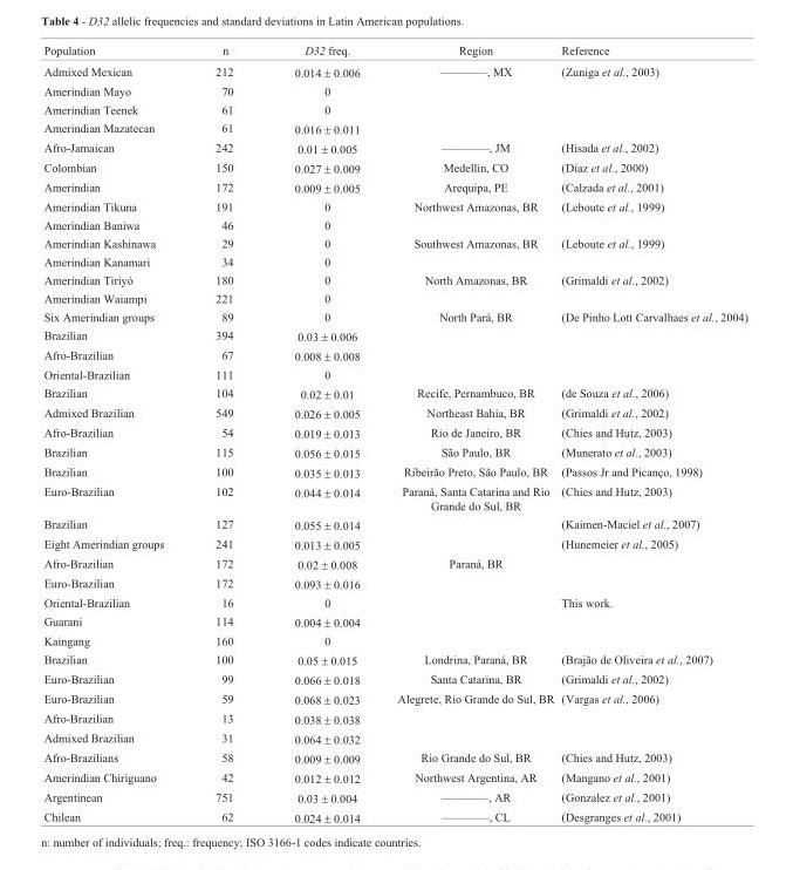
<table><thead><tr><td>Population</td><td>n</td><td>D32 freq.</td><td>Region</td><td>Reference</td></tr></thead><tbody><tr><td>Admixed Mexican</td><td>212</td><td>0.014 ± 0.006</td><td>————, MX</td><td>(Zuniga et al., 2003)</td></tr><tr><td>Amerindian Mayo</td><td>70</td><td>0</td><td></td><td></td></tr><tr><td>Amerindian Teenek</td><td>61</td><td>0</td><td></td><td></td></tr><tr><td>Amerindian Mazatecan</td><td>61</td><td>0.016 ± 0.011</td><td></td><td></td></tr><tr><td>Afro-Jamaican</td><td>242</td><td>0.01 ± 0.005</td><td>————, JM</td><td>(Hisada et al., 2002)</td></tr><tr><td>Colombian</td><td>150</td><td>0.027 ± 0.009</td><td>Medellin, CO</td><td>(Diaz et al., 2000)</td></tr><tr><td>Amerindian</td><td>172</td><td>0.009 ± 0.005</td><td>Arequipa, PE</td><td>(Calzada et al., 2001)</td></tr><tr><td>Amerindian Tikuna</td><td>191</td><td>0</td><td>Northwest Amazonas, BR</td><td>(Leboute et al., 1999)</td></tr><tr><td>Amerindian Baniwa</td><td>46</td><td>0</td><td></td><td></td></tr><tr><td>Amerindian Kashinawa</td><td>29</td><td>0</td><td>Southwest Amazonas, BR</td><td>(Leboute et al., 1999)</td></tr><tr><td>Amerindian Kanamari</td><td>34</td><td>0</td><td></td><td></td></tr><tr><td>Amerindian Tiriyó</td><td>180</td><td>0</td><td>North Amazonas, BR</td><td>(Grimaldi et al., 2002)</td></tr><tr><td>Amerindian Waiampi</td><td>221</td><td>0</td><td></td><td></td></tr><tr><td>Six Amerindian groups</td><td>89</td><td>0</td><td>North Pará, BR</td><td>(De Pinho Lott Carvalhaes et al., 2004)</td></tr><tr><td>Brazilian</td><td>394</td><td>0.03 ± 0.006</td><td></td><td></td></tr><tr><td>Afro-Brazilian</td><td>67</td><td>0.008 ± 0.008</td><td></td><td></td></tr><tr><td>Oriental-Brazilian</td><td>111</td><td>0</td><td></td><td></td></tr><tr><td>Brazilian</td><td>104</td><td>0.02 ± 0.01</td><td>Recife, Pernambuco, BR</td><td>(de Souza et al., 2006)</td></tr><tr><td>Admixed Brazilian</td><td>549</td><td>0.026 ± 0.005</td><td>Northeast Bahia, BR</td><td>(Grimaldi et al., 2002)</td></tr><tr><td>Afro-Brazilian</td><td>54</td><td>0.019 ± 0.013</td><td>Rio de Janeiro, BR</td><td>(Chies and Hutz, 2003)</td></tr><tr><td>Brazilian</td><td>115</td><td>0.056 ± 0.015</td><td>São Paulo, BR</td><td>(Munerato et al., 2003)</td></tr><tr><td>Brazilian</td><td>100</td><td>0.035 ± 0.013</td><td>Ribeirão Preto, São Paulo, BR</td><td>(Passos Jr and Picanço, 1998)</td></tr><tr><td>Euro-Brazilian</td><td>102</td><td>0.044 ± 0.014</td><td>Paraná, Santa Catarina and Rio Grande do Sul, BR</td><td>(Chies and Hutz, 2003)</td></tr><tr><td>Brazilian</td><td>127</td><td>0.055 ± 0.014</td><td></td><td>(Kaimen-Maciel et al., 2007)</td></tr><tr><td>Eight Amerindian groups</td><td>241</td><td>0.013 ± 0.005</td><td></td><td>(Hunemeier et al., 2005)</td></tr><tr><td>Afro-Brazilian</td><td>172</td><td>0.02 ± 0.008</td><td>Paraná, BR</td><td></td></tr><tr><td>Euro-Brazilian</td><td>172</td><td>0.093 ± 0.016</td><td></td><td></td></tr><tr><td>Oriental-Brazilian</td><td>16</td><td>0</td><td></td><td>This work.</td></tr><tr><td>Guarani</td><td>114</td><td>0.004 ± 0.004</td><td></td><td></td></tr><tr><td>Kaingang</td><td>160</td><td>0</td><td></td><td></td></tr><tr><td>Brazilian</td><td>100</td><td>0.05 ± 0.015</td><td>Londrina, Paraná, BR</td><td>(Brajão de Oliveira et al., 2007)</td></tr><tr><td>Euro-Brazilian</td><td>99</td><td>0.066 ± 0.018</td><td>Santa Catarina, BR</td><td>(Grimaldi et al., 2002)</td></tr><tr><td>Euro-Brazilian</td><td>59</td><td>0.068 ± 0.023</td><td>Alegrete, Rio Grande do Sul, BR</td><td>(Vargas et al., 2006)</td></tr><tr><td>Afro-Brazilian</td><td>13</td><td>0.038 ± 0.038</td><td></td><td></td></tr><tr><td>Admixed Brazilian</td><td>31</td><td>0.064 ± 0.032</td><td></td><td></td></tr><tr><td>Afro-Brazilians</td><td>58</td><td>0.009 ± 0.009</td><td>Rio Grande do Sul, BR</td><td>(Chies and Hutz, 2003)</td></tr><tr><td>Amerindian Chiriguano</td><td>42</td><td>0.012 ± 0.012</td><td>Northwest Argentina, AR</td><td>(Mangano et al., 2001)</td></tr><tr><td>Argentinean</td><td>751</td><td>0.03 ± 0.004</td><td>————, AR</td><td>(Gonzalez et al., 2001)</td></tr><tr><td>Chilean</td><td>62</td><td>0.024 ± 0.014</td><td>————, CL</td><td>(Desgranges et al., 2001)</td></tr></tbody></table>